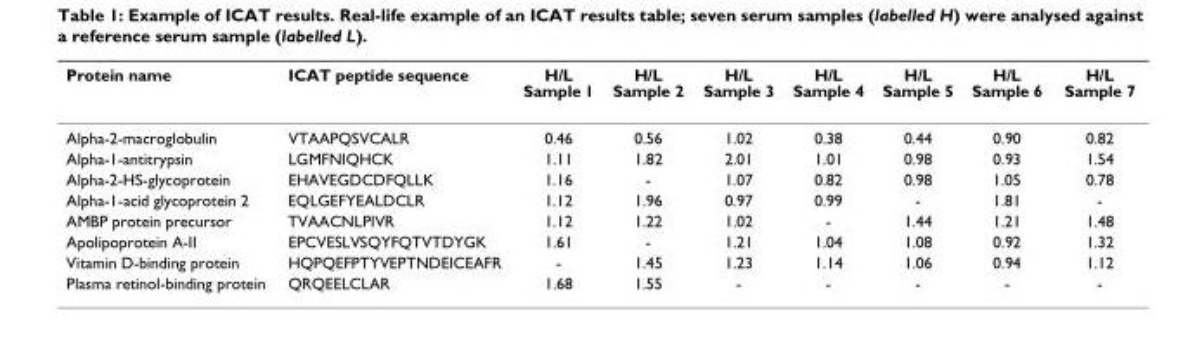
<table><thead><tr><td>Protein name</td><td>ICAT peptide sequence</td><td>H/L Sample 1</td><td>H/L Sample 2</td><td>H/L Sample 3</td><td>H/L Sample 4</td><td>H/L Sample 5</td><td>H/L Sample 6</td><td>H/L Sample 7</td></tr></thead><tbody><tr><td>Alpha-2-macroglobulin</td><td>VTAAPQSVCALR</td><td>0.46</td><td>0.56</td><td>1.02</td><td>0.38</td><td>0.44</td><td>0.90</td><td>0.82</td></tr><tr><td>Alpha-1-antitrypsin</td><td>LGMFNIQHCK</td><td>1.11</td><td>1.82</td><td>2.01</td><td>1.01</td><td>0.98</td><td>0.93</td><td>1.54</td></tr><tr><td>Alpha-2-HS-glycoprotein</td><td>EHAVEGDCDFQLLK</td><td>1.16</td><td>-</td><td>1.07</td><td>0.82</td><td>0.98</td><td>1.05</td><td>0.78</td></tr><tr><td>Alpha-1-acid glycoprotein 2</td><td>EQLGEFYEALDCLR</td><td>1.12</td><td>1.96</td><td>0.97</td><td>0.99</td><td>-</td><td>1.81</td><td>-</td></tr><tr><td>AMBP protein precursor</td><td>TVAACNLPIVR</td><td>1.12</td><td>1.22</td><td>1.02</td><td>-</td><td>1.44</td><td>1.21</td><td>1.48</td></tr><tr><td>Apolipoprotein A-II</td><td>EPCVESLVSQYFQTVTDYGK</td><td>1.61</td><td>-</td><td>1.21</td><td>1.04</td><td>1.08</td><td>0.92</td><td>1.32</td></tr><tr><td>Vitamin D-binding protein</td><td>HQPQEFPTYVEPTNDEICEAFR</td><td>-</td><td>1.45</td><td>1.23</td><td>1.14</td><td>1.06</td><td>0.94</td><td>1.12</td></tr><tr><td>Plasma retinol-binding protein</td><td>QRQEELCLAR</td><td>1.68</td><td>1.55</td><td>-</td><td>-</td><td>-</td><td>-</td><td>-</td></tr></tbody></table>